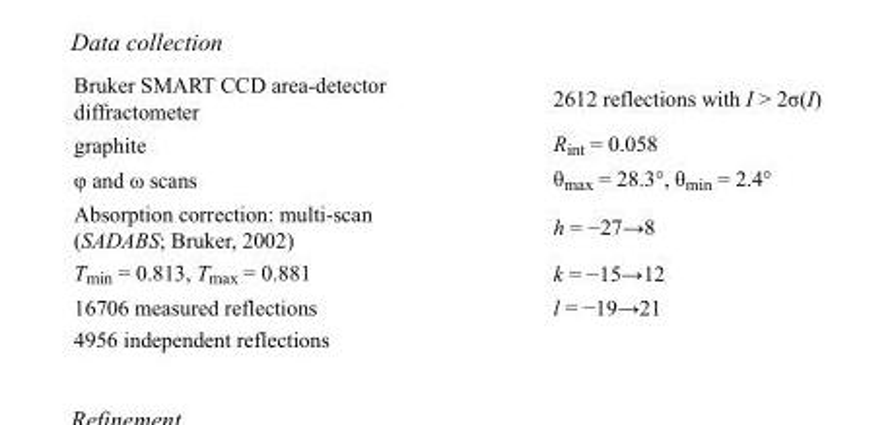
<table><tbody><tr><td>Bruker SMART CCD area-detector diffractometer</td><td>2612 reflections with I &gt; 2σ(I)</td></tr><tr><td>graphite</td><td>R<sub>int</sub> = 0.058</td></tr><tr><td>φ and ω scans</td><td>θ<sub>max</sub> = 28.3°, θ<sub>min</sub> = 2.4°</td></tr><tr><td>Absorption correction: multi-scan (SADABS; Bruker, 2002)</td><td>h = −27→8</td></tr><tr><td>T<sub>min</sub> = 0.813, T<sub>max</sub> = 0.881</td><td>k = −15→12</td></tr><tr><td>16706 measured reflections</td><td>l = −19→21</td></tr><tr><td>4956 independent reflections</td><td></td></tr></tbody></table>